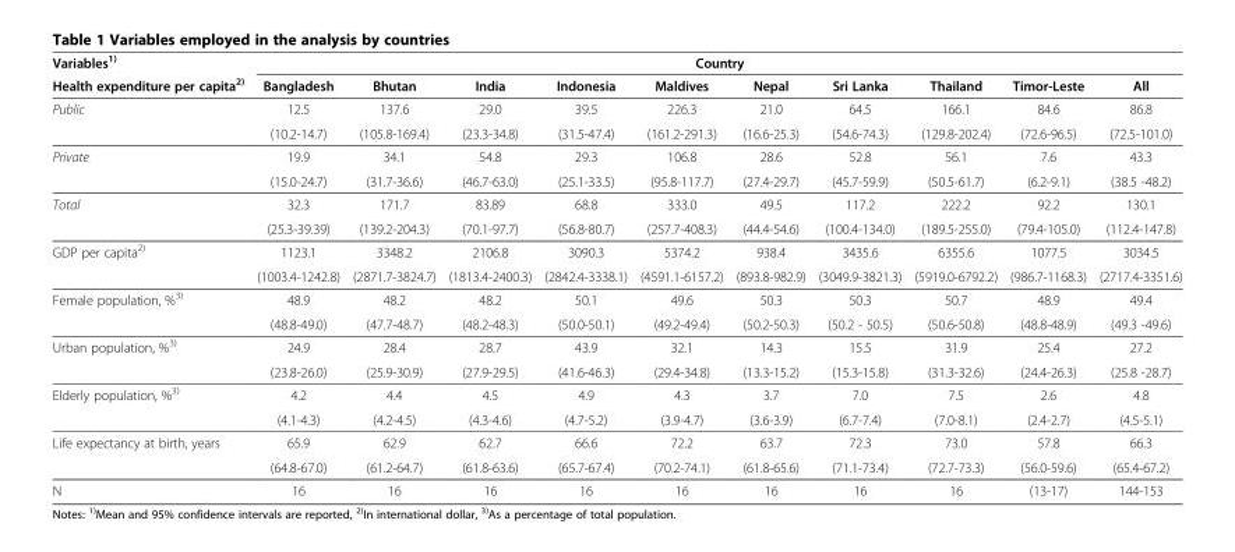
<table><thead><tr><td rowspan="2">Variables<sup>1)</sup> Health expenditure per capita<sup>2)</sup></td><td colspan="10">Country</td></tr><tr><td>Bangladesh</td><td>Bhutan</td><td>India</td><td>Indonesia</td><td>Maldives</td><td>Nepal</td><td>Sri Lanka</td><td>Thailand</td><td>Timor-Leste</td><td>All</td></tr></thead><tbody><tr><td rowspan="2">Public</td><td>12.5</td><td>137.6</td><td>29.0</td><td>39.5</td><td>226.3</td><td>21.0</td><td>64.5</td><td>166.1</td><td>84.6</td><td>86.8</td></tr><tr><td>(10.2-14.7)</td><td>(105.8-169.4)</td><td>(23.3-34.8)</td><td>(31.5-47.4)</td><td>(161.2-291.3)</td><td>(16.6-25.3)</td><td>(54.6-74.3)</td><td>(129.8-202.4)</td><td>(72.6-96.5)</td><td>(72.5-101.0)</td></tr><tr><td rowspan="2">Private</td><td>19.9</td><td>34.1</td><td>54.8</td><td>29.3</td><td>106.8</td><td>28.6</td><td>52.8</td><td>56.1</td><td>7.6</td><td>43.3</td></tr><tr><td>(15.0-24.7)</td><td>(31.7-36.6)</td><td>(46.7-63.0)</td><td>(25.1-33.5)</td><td>(95.8-117.7)</td><td>(27.4-29.7)</td><td>(45.7-59.9)</td><td>(50.5-61.7)</td><td>(6.2-9.1)</td><td>(38.5 -48.2)</td></tr><tr><td rowspan="2">Total</td><td>32.3</td><td>171.7</td><td>83.89</td><td>68.8</td><td>333.0</td><td>49.5</td><td>117.2</td><td>222.2</td><td>92.2</td><td>130.1</td></tr><tr><td>(25.3-39.39)</td><td>(139.2-204.3)</td><td>(70.1-97.7)</td><td>(56.8-80.7)</td><td>(257.7-408.3)</td><td>(44.4-54.6)</td><td>(100.4-134.0)</td><td>(189.5-255.0)</td><td>(79.4-105.0)</td><td>(112.4-147.8)</td></tr><tr><td rowspan="2">GDP per capita<sup>2)</sup></td><td>1123.1</td><td>3348.2</td><td>2106.8</td><td>3090.3</td><td>5374.2</td><td>938.4</td><td>3435.6</td><td>6355.6</td><td>1077.5</td><td>3034.5</td></tr><tr><td>(1003.4-1242.8)</td><td>(2871.7-3824.7)</td><td>(1813.4-2400.3)</td><td>(2842.4-3338.1)</td><td>(4591.1-6157.2)</td><td>(893.8-982.9)</td><td>(3049.9-3821.3)</td><td>(5919.0-6792.2)</td><td>(986.7-1168.3)</td><td>(2717.4-3351.6)</td></tr><tr><td rowspan="2">Female population, %<sup>3)</sup></td><td>48.9</td><td>48.2</td><td>48.2</td><td>50.1</td><td>49.6</td><td>50.3</td><td>50.3</td><td>50.7</td><td>48.9</td><td>49.4</td></tr><tr><td>(48.8-49.0)</td><td>(47.7-48.7)</td><td>(48.2-48.3)</td><td>(50.0-50.1)</td><td>(49.2-49.4)</td><td>(50.2-50.3)</td><td>(50.2 - 50.5)</td><td>(50.6-50.8)</td><td>(48.8-48.9)</td><td>(49.3 -49.6)</td></tr><tr><td rowspan="2">Urban population, %<sup>3)</sup></td><td>24.9</td><td>28.4</td><td>28.7</td><td>43.9</td><td>32.1</td><td>14.3</td><td>15.5</td><td>31.9</td><td>25.4</td><td>27.2</td></tr><tr><td>(23.8-26.0)</td><td>(25.9-30.9)</td><td>(27.9-29.5)</td><td>(41.6-46.3)</td><td>(29.4-34.8)</td><td>(13.3-15.2)</td><td>(15.3-15.8)</td><td>(31.3-32.6)</td><td>(24.4-26.3)</td><td>(25.8 -28.7)</td></tr><tr><td rowspan="2">Elderly population, %<sup>3)</sup></td><td>4.2</td><td>4.4</td><td>4.5</td><td>4.9</td><td>4.3</td><td>3.7</td><td>7.0</td><td>7.5</td><td>2.6</td><td>4.8</td></tr><tr><td>(4.1-4.3)</td><td>(4.2-4.5)</td><td>(4.3-4.6)</td><td>(4.7-5.2)</td><td>(3.9-4.7)</td><td>(3.6-3.9)</td><td>(6.7-7.4)</td><td>(7.0-8.1)</td><td>(2.4-2.7)</td><td>(4.5-5.1)</td></tr><tr><td rowspan="2">Life expectancy at birth, years</td><td>65.9</td><td>62.9</td><td>62.7</td><td>66.6</td><td>72.2</td><td>63.7</td><td>72.3</td><td>73.0</td><td>57.8</td><td>66.3</td></tr><tr><td>(64.8-67.0)</td><td>(61.2-64.7)</td><td>(61.8-63.6)</td><td>(65.7-67.4)</td><td>(70.2-74.1)</td><td>(61.8-65.6)</td><td>(71.1-73.4)</td><td>(72.7-73.3)</td><td>(56.0-59.6)</td><td>(65.4-67.2)</td></tr><tr><td>N</td><td>16</td><td>16</td><td>16</td><td>16</td><td>16</td><td>16</td><td>16</td><td>16</td><td>(13-17)</td><td>144-153</td></tr></tbody></table>